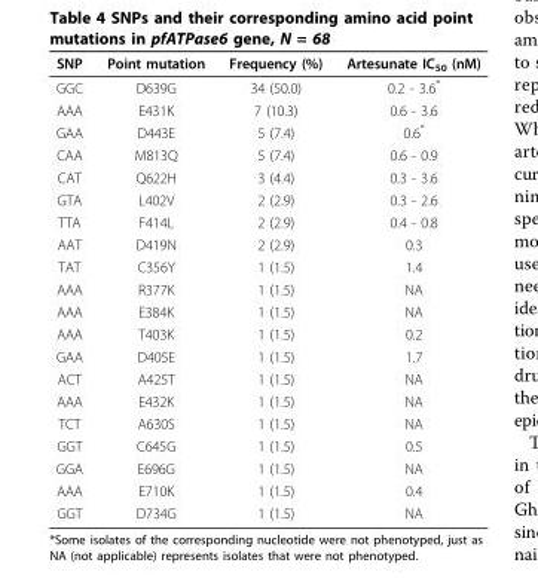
<table><thead><tr><td>SNP</td><td>Point mutation</td><td>Frequency (%)</td><td>Artesunate IC<sub>50</sub> (nM)</td></tr></thead><tbody><tr><td>GGC</td><td>D639G</td><td>34 (50.0)</td><td>0.2 - 3.6*</td></tr><tr><td>AAA</td><td>E431K</td><td>7 (10.3)</td><td>0.6 - 3.6</td></tr><tr><td>GAA</td><td>D443E</td><td>5 (7.4)</td><td>0.6*</td></tr><tr><td>CAA</td><td>M813Q</td><td>5 (7.4)</td><td>0.6 - 0.9</td></tr><tr><td>CAT</td><td>Q622H</td><td>3 (4.4)</td><td>0.3 - 3.6</td></tr><tr><td>GTA</td><td>L402V</td><td>2 (2.9)</td><td>0.3 - 2.6</td></tr><tr><td>TTA</td><td>F414L</td><td>2 (2.9)</td><td>0.4 - 0.8</td></tr><tr><td>AAT</td><td>D419N</td><td>2 (2.9)</td><td>0.3</td></tr><tr><td>TAT</td><td>C356Y</td><td>1 (1.5)</td><td>1.4</td></tr><tr><td>AAA</td><td>R377K</td><td>1 (1.5)</td><td>NA</td></tr><tr><td>AAA</td><td>E384K</td><td>1 (1.5)</td><td>NA</td></tr><tr><td>AAA</td><td>T403K</td><td>1 (1.5)</td><td>0.2</td></tr><tr><td>GAA</td><td>D405E</td><td>1 (1.5)</td><td>1.7</td></tr><tr><td>ACT</td><td>A425T</td><td>1 (1.5)</td><td>NA</td></tr><tr><td>AAA</td><td>E432K</td><td>1 (1.5)</td><td>NA</td></tr><tr><td>TCT</td><td>A630S</td><td>1 (1.5)</td><td>NA</td></tr><tr><td>GGT</td><td>C645G</td><td>1 (1.5)</td><td>0.5</td></tr><tr><td>GGA</td><td>E696G</td><td>1 (1.5)</td><td>NA</td></tr><tr><td>AAA</td><td>E710K</td><td>1 (1.5)</td><td>0.4</td></tr><tr><td>GGT</td><td>D734G</td><td>1 (1.5)</td><td>NA</td></tr></tbody></table>